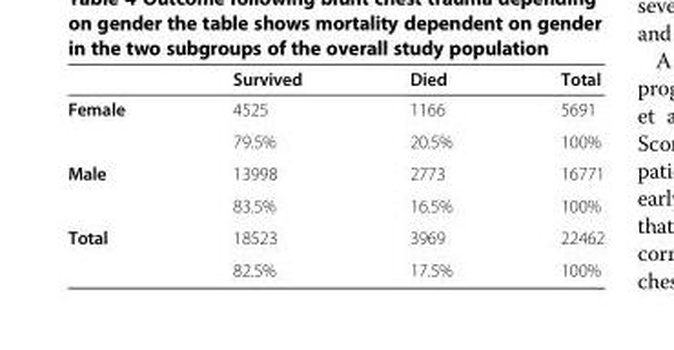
<table><thead><tr><td></td><td>Survived</td><td>Died</td><td>Total</td></tr></thead><tbody><tr><td rowspan="2">Female</td><td>4525</td><td>1166</td><td>5691</td></tr><tr><td>79.5%</td><td>20.5%</td><td>100%</td></tr><tr><td rowspan="2">Male</td><td>13998</td><td>2773</td><td>16771</td></tr><tr><td>83.5%</td><td>16.5%</td><td>100%</td></tr><tr><td rowspan="2">Total</td><td>18523</td><td>3969</td><td>22462</td></tr><tr><td>82.5%</td><td>17.5%</td><td>100%</td></tr></tbody></table>